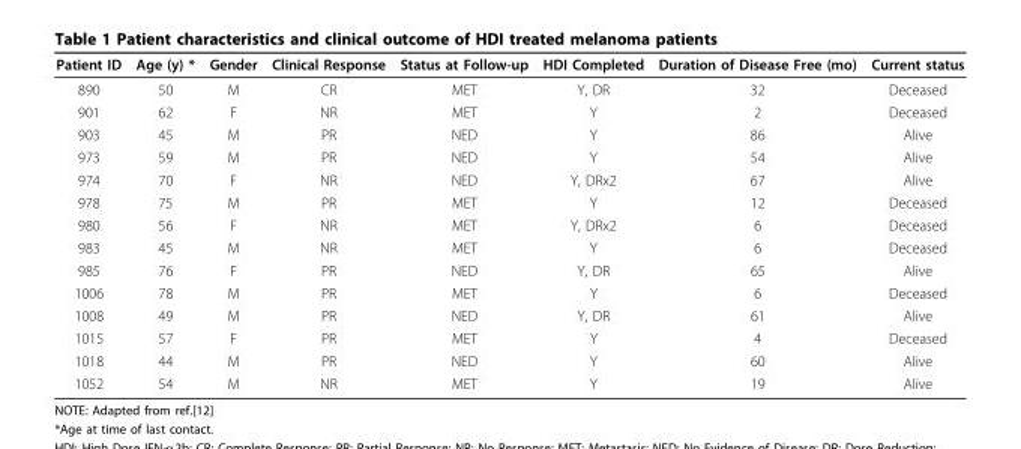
<table><thead><tr><td>Patient ID</td><td>Age (y) *</td><td>Gender</td><td>Clinical Response</td><td>Status at Follow-up</td><td>HDI Completed</td><td>Duration of Disease Free (mo)</td><td>Current status</td></tr></thead><tbody><tr><td>890</td><td>50</td><td>M</td><td>CR</td><td>MET</td><td>Y, DR</td><td>32</td><td>Deceased</td></tr><tr><td>901</td><td>62</td><td>F</td><td>NR</td><td>MET</td><td>Y</td><td>2</td><td>Deceased</td></tr><tr><td>903</td><td>45</td><td>M</td><td>PR</td><td>NED</td><td>Y</td><td>86</td><td>Alive</td></tr><tr><td>973</td><td>59</td><td>M</td><td>PR</td><td>NED</td><td>Y</td><td>54</td><td>Alive</td></tr><tr><td>974</td><td>70</td><td>F</td><td>NR</td><td>NED</td><td>Y, DRx2</td><td>67</td><td>Alive</td></tr><tr><td>978</td><td>75</td><td>M</td><td>PR</td><td>MET</td><td>Y</td><td>12</td><td>Deceased</td></tr><tr><td>980</td><td>56</td><td>F</td><td>NR</td><td>MET</td><td>Y, DRx2</td><td>6</td><td>Deceased</td></tr><tr><td>983</td><td>45</td><td>M</td><td>NR</td><td>MET</td><td>Y</td><td>6</td><td>Deceased</td></tr><tr><td>985</td><td>76</td><td>F</td><td>PR</td><td>NED</td><td>Y, DR</td><td>65</td><td>Alive</td></tr><tr><td>1006</td><td>78</td><td>M</td><td>PR</td><td>MET</td><td>Y</td><td>6</td><td>Deceased</td></tr><tr><td>1008</td><td>49</td><td>M</td><td>PR</td><td>NED</td><td>Y, DR</td><td>61</td><td>Alive</td></tr><tr><td>1015</td><td>57</td><td>F</td><td>PR</td><td>MET</td><td>Y</td><td>4</td><td>Deceased</td></tr><tr><td>1018</td><td>44</td><td>M</td><td>PR</td><td>NED</td><td>Y</td><td>60</td><td>Alive</td></tr><tr><td>1052</td><td>54</td><td>M</td><td>NR</td><td>MET</td><td>Y</td><td>19</td><td>Alive</td></tr></tbody></table>